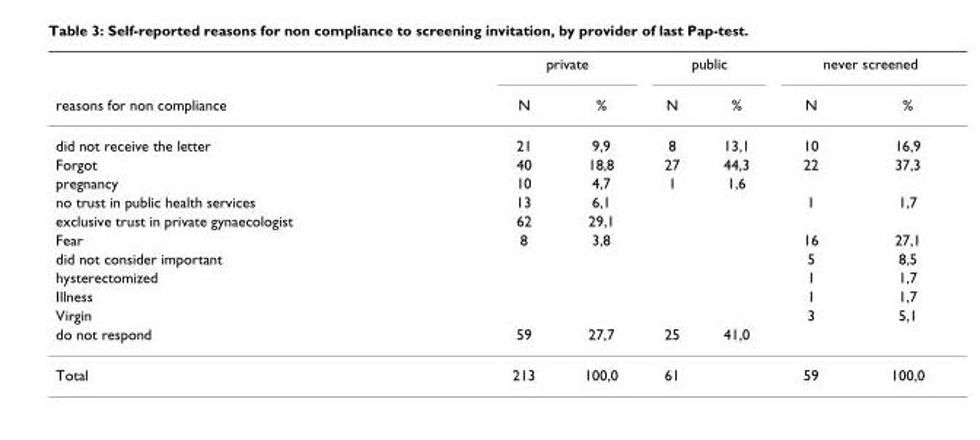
<table><thead><tr><td rowspan="2">reasons for non compliance</td><td colspan="2">private</td><td colspan="2">public</td><td colspan="2">never screened</td></tr><tr><td>N</td><td>%</td><td>N</td><td>%</td><td>N</td><td>%</td></tr></thead><tbody><tr><td>did not receive the letter</td><td>21</td><td>9,9</td><td>8</td><td>13,1</td><td>10</td><td>16,9</td></tr><tr><td>Forgot</td><td>40</td><td>18,8</td><td>27</td><td>44,3</td><td>22</td><td>37,3</td></tr><tr><td>pregnancy</td><td>10</td><td>4,7</td><td>1</td><td>1,6</td><td></td><td></td></tr><tr><td>no trust in public health services</td><td>13</td><td>6,1</td><td></td><td></td><td>1</td><td>1,7</td></tr><tr><td>exclusive trust in private gynaecologist</td><td>62</td><td>29,1</td><td></td><td></td><td></td><td></td></tr><tr><td>Fear</td><td>8</td><td>3,8</td><td></td><td></td><td>16</td><td>27,1</td></tr><tr><td>did not consider important</td><td></td><td></td><td></td><td></td><td>5</td><td>8,5</td></tr><tr><td>hysterectomized</td><td></td><td></td><td></td><td></td><td>1</td><td>1,7</td></tr><tr><td>Illness</td><td></td><td></td><td></td><td></td><td>1</td><td>1,7</td></tr><tr><td>Virgin</td><td></td><td></td><td></td><td></td><td>3</td><td>5,1</td></tr><tr><td>do not respond</td><td>59</td><td>27,7</td><td>25</td><td>41,0</td><td></td><td></td></tr><tr><td>Total</td><td>213</td><td>100,0</td><td>61</td><td></td><td>59</td><td>100,0</td></tr></tbody></table>